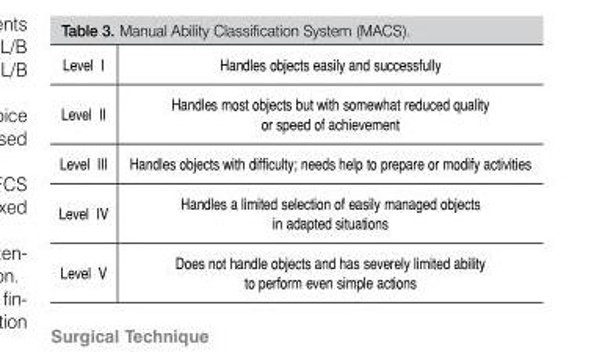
<table><tbody><tr><td>Level I</td><td>Handles objects easily and successfully</td></tr><tr><td>Level II</td><td>Handles most objects but with somewhat reduced quality or speed of achievement</td></tr><tr><td>Level III</td><td>Handles objects with difficulty; needs help to prepare or modify activities</td></tr><tr><td>Level IV</td><td>Handles a limited selection of easily managed objects in adapted situations</td></tr><tr><td>Level V</td><td>Does not handle objects and has severely limited ability to perform even simple actions</td></tr></tbody></table>